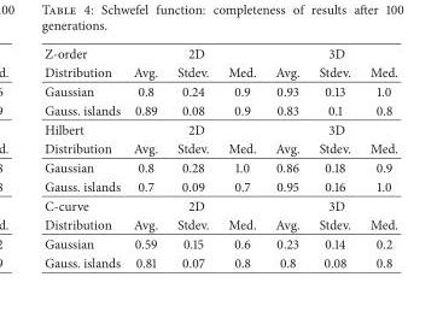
<table><thead><tr><td rowspan="2">Z-order Distribution</td><td colspan="3">2D</td><td colspan="3">3D</td></tr><tr><td>Avg.</td><td>Stdev.</td><td>Med.</td><td>Avg.</td><td>Stdev.</td><td>Med.</td></tr></thead><tbody><tr><td>Gaussian</td><td>0.8</td><td>0.24</td><td>0.9</td><td>0.93</td><td>0.13</td><td>1.0</td></tr><tr><td>Gauss. islands</td><td>0.89</td><td>0.08</td><td>0.9</td><td>0.83</td><td>0.1</td><td>0.8</td></tr><tr><td>Hilbert</td><td colspan="3">2D</td><td colspan="3">3D</td></tr><tr><td>Distribution</td><td>Avg.</td><td>Stdev.</td><td>Med.</td><td>Avg.</td><td>Stdev.</td><td>Med.</td></tr><tr><td>Gaussian</td><td>0.8</td><td>0.28</td><td>1.0</td><td>0.86</td><td>0.18</td><td>0.9</td></tr><tr><td>Gauss. islands</td><td>0.7</td><td>0.09</td><td>0.7</td><td>0.95</td><td>0.16</td><td>1.0</td></tr><tr><td>C-curve</td><td colspan="3">2D</td><td colspan="3">3D</td></tr><tr><td>Distribution</td><td>Avg.</td><td>Stdev.</td><td>Med.</td><td>Avg.</td><td>Stdev.</td><td>Med.</td></tr><tr><td>Gaussian</td><td>0.59</td><td>0.15</td><td>0.6</td><td>0.23</td><td>0.14</td><td>0.2</td></tr><tr><td>Gauss. islands</td><td>0.81</td><td>0.07</td><td>0.8</td><td>0.8</td><td>0.08</td><td>0.8</td></tr></tbody></table>